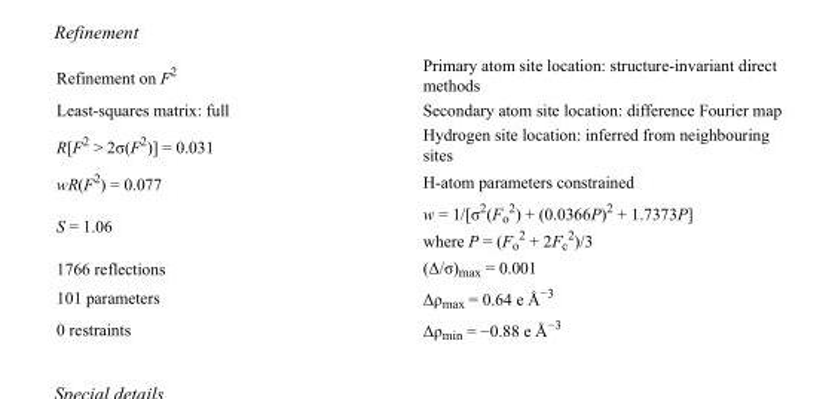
<table><tbody><tr><td>Refinement on F<sup>2</sup></td><td>Primary atom site location: structure-invariant direct methods</td></tr><tr><td>Least-squares matrix: full</td><td>Secondary atom site location: difference Fourier map</td></tr><tr><td>R[F<sup>2</sup> &gt; 2σ(F<sup>2</sup>)] = 0.031</td><td>Hydrogen site location: inferred from neighbouring sites</td></tr><tr><td>wR(F<sup>2</sup>) = 0.077</td><td>H-atom parameters constrained</td></tr><tr><td>S = 1.06</td><td>w = 1/[σ<sup>2</sup>(F<sub>o</sub> <sup>2</sup>) + (0.0366P)<sup>2</sup> + 1.7373P] where P = (F<sub>o</sub> <sup>2</sup> + 2F<sub>c</sub> <sup>2</sup>)/3</td></tr><tr><td>1766 reflections</td><td>(Δ/σ)<sub>max</sub> = 0.001</td></tr><tr><td>101 parameters</td><td>Δρ<sub>max</sub> = 0.64 e Å<sup>−3</sup></td></tr><tr><td>0 restraints</td><td>Δρ<sub>min</sub> = −0.88 e Å<sup>−3</sup></td></tr></tbody></table>